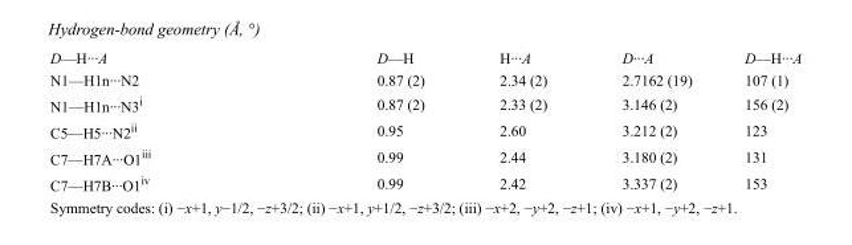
<table><tbody><tr><td>D—H···A</td><td>D—H</td><td>H···A</td><td>D···A</td><td>D—H···A</td></tr><tr><td>N1—H1n···N2</td><td>0.87 (2)</td><td>2.34 (2)</td><td>2.7162 (19)</td><td>107 (1)</td></tr><tr><td>N1—H1n···N3<sup>i</sup></td><td>0.87 (2)</td><td>2.33 (2)</td><td>3.146 (2)</td><td>156 (2)</td></tr><tr><td>C5—H5···N2<sup>ii</sup></td><td>0.95</td><td>2.60</td><td>3.212 (2)</td><td>123</td></tr><tr><td>C7—H7A···O1<sup>iii</sup></td><td>0.99</td><td>2.44</td><td>3.180 (2)</td><td>131</td></tr><tr><td>C7—H7B···O1<sup>iv</sup></td><td>0.99</td><td>2.42</td><td>3.337 (2)</td><td>153</td></tr></tbody></table>